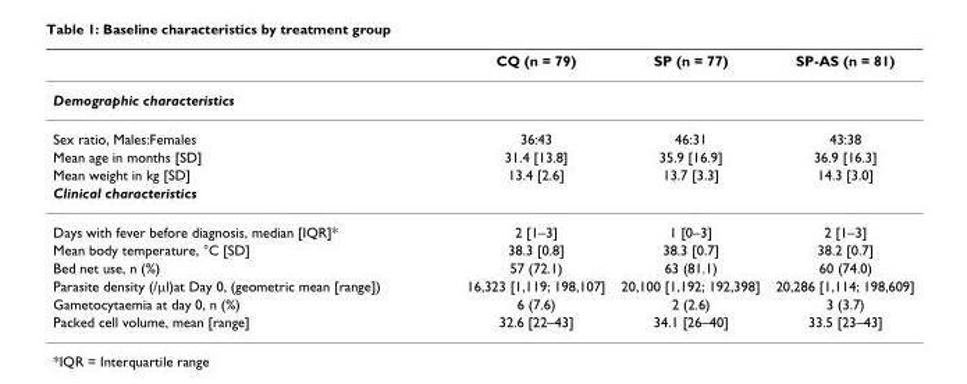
<table><thead><tr><td></td><td>CQ (n = 79)</td><td>SP (n = 77)</td><td>SP-AS (n = 81)</td></tr></thead><tbody><tr><td colspan="4">Demographic characteristics</td></tr><tr><td>Sex ratio, Males:Females</td><td>36:43</td><td>46:31</td><td>43:38</td></tr><tr><td>Mean age in months [SD]</td><td>31.4 [13.8]</td><td>35.9 [16.9]</td><td>36.9 [16.3]</td></tr><tr><td>Mean weight in kg [SD]</td><td>13.4 [2.6]</td><td>13.7 [3.3]</td><td>14.3 [3.0]</td></tr><tr><td colspan="4">Clinical characteristics</td></tr><tr><td>Days with fever before diagnosis, median [IQR]*</td><td>2 [1–3]</td><td>1 [0–3]</td><td>2 [1–3]</td></tr><tr><td>Mean body temperature, °C [SD]</td><td>38.3 [0.8]</td><td>38.3 [0.7]</td><td>38.2 [0.7]</td></tr><tr><td>Bed net use, n (%)</td><td>57 (72.1)</td><td>63 (81.1)</td><td>60 (74.0)</td></tr><tr><td>Parasite density (/μl)at Day 0, (geometric mean [range])</td><td>16,323 [1,119; 198,107]</td><td>20,100 [1,192; 192,398]</td><td>20,286 [1,114; 198,609]</td></tr><tr><td>Gametocytaemia at day 0, n (%)</td><td>6 (7.6)</td><td>2 (2.6)</td><td>3 (3.7)</td></tr><tr><td>Packed cell volume, mean [range]</td><td>32.6 [22–43]</td><td>34.1 [26–40]</td><td>33.5 [23–43]</td></tr></tbody></table>